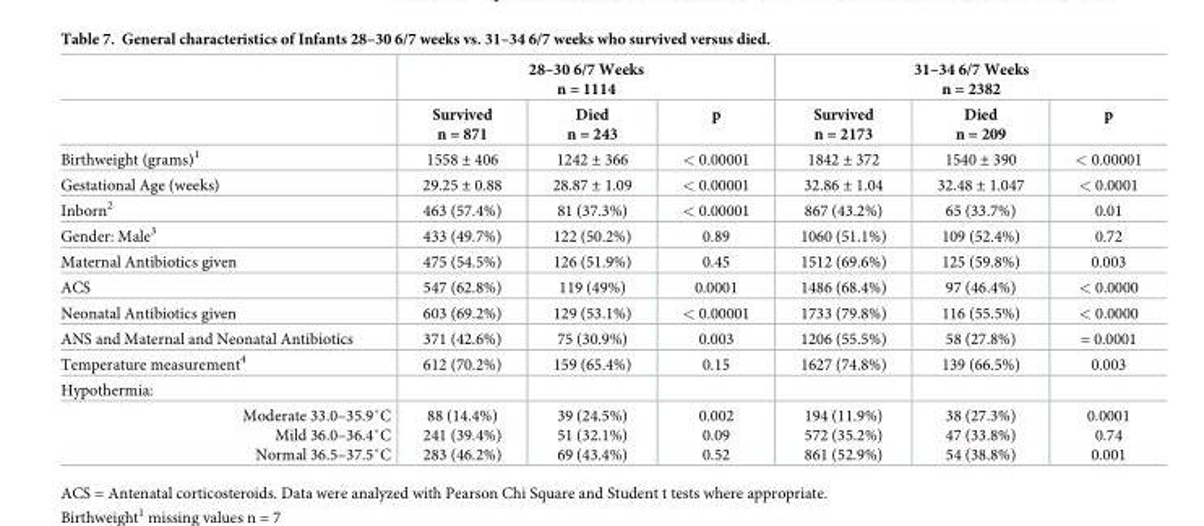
<table><thead><tr><td rowspan="2"></td><td colspan="3">28–30 6/7 Weeks n = 1114</td><td colspan="3">31–34 6/7 Weeks n = 2382</td></tr><tr><td>Survived n = 871</td><td>Died n = 243</td><td>p</td><td>Survived n = 2173</td><td>Died n = 209</td><td>p</td></tr></thead><tbody><tr><td>Birthweight (grams)<sup>1</sup></td><td>1558 ± 406</td><td>1242 ± 366</td><td>&lt; 0.00001</td><td>1842 ± 372</td><td>1540 ± 390</td><td>&lt; 0.00001</td></tr><tr><td>Gestational Age (weeks)</td><td>29.25 ± 0.88</td><td>28.87 ± 1.09</td><td>&lt; 0.00001</td><td>32.86 ± 1.04</td><td>32.48 ± 1.047</td><td>&lt; 0.0001</td></tr><tr><td>Inborn<sup>2</sup></td><td>463 (57.4%)</td><td>81 (37.3%)</td><td>&lt; 0.00001</td><td>867 (43.2%)</td><td>65 (33.7%)</td><td>0.01</td></tr><tr><td>Gender: Male<sup>3</sup></td><td>433 (49.7%)</td><td>122 (50.2%)</td><td>0.89</td><td>1060 (51.1%)</td><td>109 (52.4%)</td><td>0.72</td></tr><tr><td>Maternal Antibiotics given</td><td>475 (54.5%)</td><td>126 (51.9%)</td><td>0.45</td><td>1512 (69.6%)</td><td>125 (59.8%)</td><td>0.003</td></tr><tr><td>ACS</td><td>547 (62.8%)</td><td>119 (49%)</td><td>0.0001</td><td>1486 (68.4%)</td><td>97 (46.4%)</td><td>&lt; 0.0000</td></tr><tr><td>Neonatal Antibiotics given</td><td>603 (69.2%)</td><td>129 (53.1%)</td><td>&lt; 0.00001</td><td>1733 (79.8%)</td><td>116 (55.5%)</td><td>&lt; 0.0000</td></tr><tr><td>ANS and Maternal and Neonatal Antibiotics</td><td>371 (42.6%)</td><td>75 (30.9%)</td><td>0.003</td><td>1206 (55.5%)</td><td>58 (27.8%)</td><td>= 0.0001</td></tr><tr><td>Temperature measurement<sup>4</sup></td><td>612 (70.2%)</td><td>159 (65.4%)</td><td>0.15</td><td>1627 (74.8%)</td><td>139 (66.5%)</td><td>0.003</td></tr><tr><td colspan="7">Hypothermia:</td></tr><tr><td>Moderate 33.0–35.9˚C Mild 36.0–36.4˚C Normal 36.5–37.5˚C</td><td>88 (14.4%) 241 (39.4%) 283 (46.2%)</td><td>39 (24.5%) 51 (32.1%) 69 (43.4%)</td><td>0.002 0.09 0.52</td><td>194 (11.9%) 572 (35.2%) 861 (52.9%)</td><td>38 (27.3%) 47 (33.8%) 54 (38.8%)</td><td>0.0001 0.74 0.001</td></tr></tbody></table>